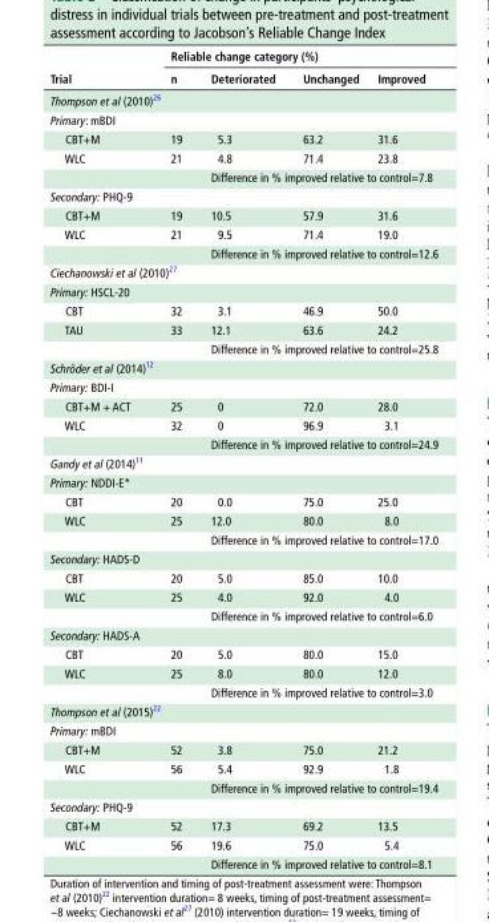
<table><thead><tr><td rowspan="2">Trial</td><td colspan="4">reliable change category (%)</td></tr><tr><td>n</td><td>deteriorated</td><td>unchanged</td><td>Improved</td></tr></thead><tbody><tr><td colspan="5">Thompson et al (2010)<sup>26</sup></td></tr><tr><td colspan="5">Primary: mBDI</td></tr><tr><td>CBT+M</td><td>19</td><td>5.3</td><td>63.2</td><td>31.6</td></tr><tr><td rowspan="2">WLC</td><td>21</td><td>4.8</td><td>71.4</td><td>23.8</td></tr><tr><td></td><td colspan="3">Difference in % improved relative to control=7.8</td></tr><tr><td colspan="5">Secondary: PHQ-9</td></tr><tr><td>CBT+M</td><td>19</td><td>10.5</td><td>57.9</td><td>31.6</td></tr><tr><td rowspan="2">WLC</td><td>21</td><td>9.5</td><td>71.4</td><td>19.0</td></tr><tr><td></td><td colspan="3">Difference in % improved relative to control=12.6</td></tr><tr><td colspan="5">Ciechanowski et al (2010)<sup>27</sup></td></tr><tr><td colspan="5">Primary: HSCL-20</td></tr><tr><td>CBT</td><td>32</td><td>3.1</td><td>46.9</td><td>50.0</td></tr><tr><td rowspan="2">TAU</td><td>33</td><td>12.1</td><td>63.6</td><td>24.2</td></tr><tr><td></td><td colspan="3">Difference in % improved relative to control=25.8</td></tr><tr><td colspan="5">Schröder et al (2014)<sup>12</sup></td></tr><tr><td colspan="5">Primary: BDI-I</td></tr><tr><td>CBT+M + ACT</td><td>25</td><td>0</td><td>72.0</td><td>28.0</td></tr><tr><td rowspan="2">WLC</td><td>32</td><td>0</td><td>96.9</td><td>3.1</td></tr><tr><td></td><td colspan="3">Difference in % improved relative to control=24.9</td></tr><tr><td colspan="5">Gandy et al (2014)<sup>11</sup></td></tr><tr><td colspan="5">Primary: NDDI-E*</td></tr><tr><td>CBT</td><td>20</td><td>0.0</td><td>75.0</td><td>25.0</td></tr><tr><td rowspan="2">WLC</td><td>25</td><td>12.0</td><td>80.0</td><td>8.0</td></tr><tr><td></td><td colspan="3">Difference in % improved relative to control=17.0</td></tr><tr><td colspan="5">Secondary: HADS-D</td></tr><tr><td>CBT</td><td>20</td><td>5.0</td><td>85.0</td><td>10.0</td></tr><tr><td rowspan="2">WLC</td><td>25</td><td>4.0</td><td>92.0</td><td>4.0</td></tr><tr><td></td><td colspan="3">Difference in % improved relative to control=6.0</td></tr><tr><td colspan="5">Secondary: HADS-A</td></tr><tr><td>CBT</td><td>20</td><td>5.0</td><td>80.0</td><td>15.0</td></tr><tr><td rowspan="2">WLC</td><td>25</td><td>8.0</td><td>80.0</td><td>12.0</td></tr><tr><td></td><td colspan="3">Difference in % improved relative to control=3.0</td></tr><tr><td colspan="5">Thompson et al (2015)<sup>22</sup></td></tr><tr><td colspan="5">Primary: mBDI</td></tr><tr><td>CBT+M</td><td>52</td><td>3.8</td><td>75.0</td><td>21.2</td></tr><tr><td rowspan="2">WLC</td><td>56</td><td>5.4</td><td>92.9</td><td>1.8</td></tr><tr><td></td><td colspan="3">Difference in % improved relative to control=19.4</td></tr><tr><td colspan="5">Secondary: PHQ-9</td></tr><tr><td>CBT+M</td><td>52</td><td>17.3</td><td>69.2</td><td>13.5</td></tr><tr><td rowspan="2">WLC</td><td>56</td><td>19.6</td><td>75.0</td><td>5.4</td></tr><tr><td></td><td colspan="3">Difference in % improved relative to control=8.1</td></tr></tbody></table>